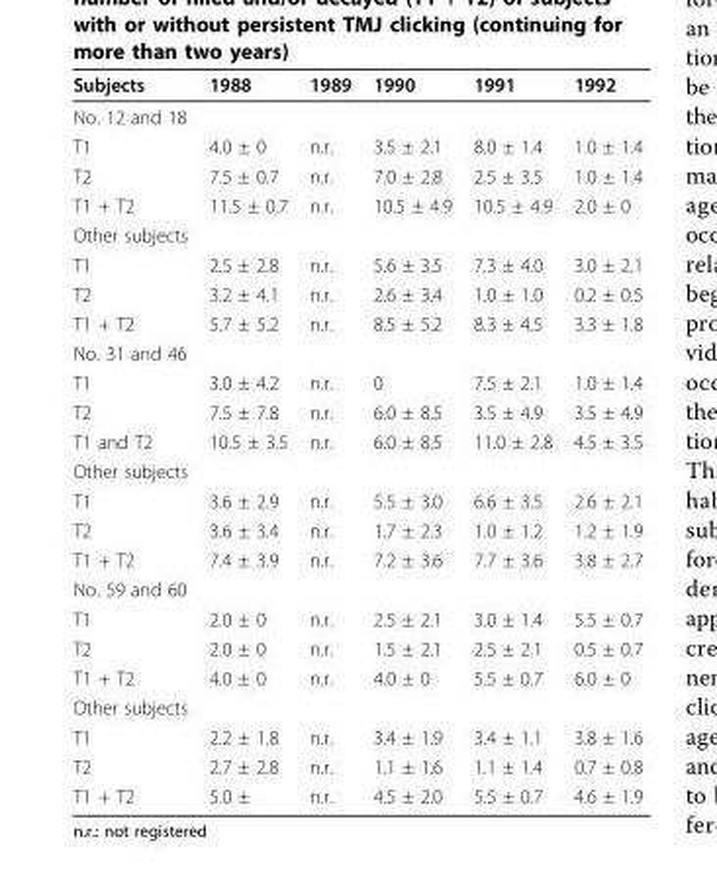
<table><thead><tr><td>Subjects</td><td>1988</td><td>1989</td><td>1990</td><td>1991</td><td>1992</td></tr></thead><tbody><tr><td colspan="6">No. 12 and 18</td></tr><tr><td>T1</td><td>4.0 ± 0</td><td>n.r.</td><td>3.5 ± 2.1</td><td>8.0 ± 1.4</td><td>1.0 ± 1.4</td></tr><tr><td>T2</td><td>7.5 ± 0.7</td><td>n.r.</td><td>7.0 ± 2.8</td><td>2.5 ± 3.5</td><td>1.0 ± 1.4</td></tr><tr><td>T1 + T2</td><td>11.5 ± 0.7</td><td>n.r.</td><td>10.5 ± 4.9</td><td>10.5 ± 4.9</td><td>2.0 ± 0</td></tr><tr><td colspan="6">Other subjects</td></tr><tr><td>T1</td><td>2.5 ± 2.8</td><td>n.r.</td><td>5.6 ± 3.5</td><td>7.3 ± 4.0</td><td>3.0 ± 2.1</td></tr><tr><td>T2</td><td>3.2 ± 4.1</td><td>n.r.</td><td>2.6 ± 3.4</td><td>1.0 ± 1.0</td><td>0.2 ± 0.5</td></tr><tr><td>T1 + T2</td><td>5.7 ± 5.2</td><td>n.r.</td><td>8.5 ± 5.2</td><td>8.3 ± 4.5</td><td>3.3 ± 1.8</td></tr><tr><td colspan="6">No. 31 and 46</td></tr><tr><td>T1</td><td>3.0 ± 4.2</td><td>n.r.</td><td>0</td><td>7.5 ± 2.1</td><td>1.0 ± 1.4</td></tr><tr><td>T2</td><td>7.5 ± 7.8</td><td>n.r.</td><td>6.0 ± 8.5</td><td>3.5 ± 4.9</td><td>3.5 ± 4.9</td></tr><tr><td>T1 and T2</td><td>10.5 ± 3.5</td><td>n.r.</td><td>6.0 ± 8.5</td><td>11.0 ± 2.8</td><td>4.5 ± 3.5</td></tr><tr><td colspan="6">Other subjects</td></tr><tr><td>T1</td><td>3.6 ± 2.9</td><td>n.r.</td><td>5.5 ± 3.0</td><td>6.6 ± 3.5</td><td>2.6 ± 2.1</td></tr><tr><td>T2</td><td>3.6 ± 3.4</td><td>n.r.</td><td>1.7 ± 2.3</td><td>1.0 ± 1.2</td><td>1.2 ± 1.9</td></tr><tr><td>T1 + T2</td><td>7.4 ± 3.9</td><td>n.r.</td><td>7.2 ± 3.6</td><td>7.7 ± 3.6</td><td>3.8 ± 2.7</td></tr><tr><td colspan="6">No. 59 and 60</td></tr><tr><td>T1</td><td>2.0 ± 0</td><td>n.r.</td><td>2.5 ± 2.1</td><td>3.0 ± 1.4</td><td>5.5 ± 0.7</td></tr><tr><td>T2</td><td>2.0 ± 0</td><td>n.r.</td><td>1.5 ± 2.1</td><td>2.5 ± 2.1</td><td>0.5 ± 0.7</td></tr><tr><td>T1 + T2</td><td>4.0 ± 0</td><td>n.r.</td><td>4.0 ± 0</td><td>5.5 ± 0.7</td><td>6.0 ± 0</td></tr><tr><td colspan="6">Other subjects</td></tr><tr><td>T1</td><td>2.2 ± 1.8</td><td>n.r.</td><td>3.4 ± 1.9</td><td>3.4 ± 1.1</td><td>3.8 ± 1.6</td></tr><tr><td>T2</td><td>2.7 ± 2.8</td><td>n.r.</td><td>1.1 ± 1.6</td><td>1.1 ± 1.4</td><td>0.7 ± 0.8</td></tr><tr><td>T1 + T2</td><td>5.0 ±</td><td>n.r.</td><td>4.5 ± 2.0</td><td>5.5 ± 0.7</td><td>4.6 ± 1.9</td></tr></tbody></table>